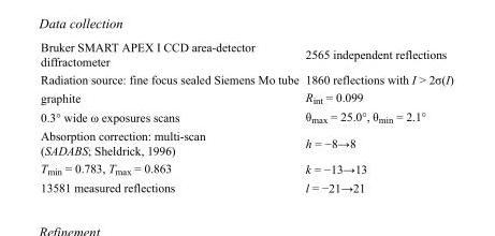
<table><tbody><tr><td>Bruker SMART APEX I CCD area-detector diffractometer</td><td>2565 independent reflections</td></tr><tr><td>Radiation source: fine focus sealed Siemens Mo tube</td><td>1860 reflections with I &gt; 2σ(I)</td></tr><tr><td>graphite</td><td>R<sub>int</sub> = 0.099</td></tr><tr><td>0.3° wide ω exposures scans</td><td>θ<sub>max</sub> = 25.0°, θ<sub>min</sub> = 2.1°</td></tr><tr><td>Absorption correction: multi-scan (SADABS; Sheldrick, 1996)</td><td>h = −8→8</td></tr><tr><td>T<sub>min</sub> = 0.783, T<sub>max</sub> = 0.863</td><td>k = −13→13</td></tr><tr><td>13581 measured reflections</td><td>l = −21→21</td></tr></tbody></table>